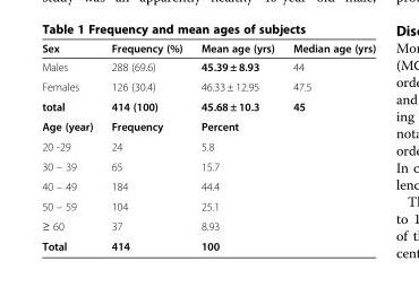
<table><thead><tr><td>Sex</td><td>Frequency (%)</td><td>Mean age (yrs)</td><td>Median age (yrs)</td></tr></thead><tbody><tr><td>Males</td><td>288 (69.6)</td><td>45.39 ± 8.93</td><td>44</td></tr><tr><td>Females</td><td>126 (30.4)</td><td>46.33 ± 12.95</td><td>47.5</td></tr><tr><td>total</td><td>414 (100)</td><td>45.68 ± 10.3</td><td>45</td></tr><tr><td>Age (year)</td><td>Frequency</td><td colspan="2">Percent</td></tr><tr><td>20 -29</td><td>24</td><td colspan="2">5.8</td></tr><tr><td>30 – 39</td><td>65</td><td colspan="2">15.7</td></tr><tr><td>40 – 49</td><td>184</td><td colspan="2">44.4</td></tr><tr><td>50 – 59</td><td>104</td><td colspan="2">25.1</td></tr><tr><td>≥ 60</td><td>37</td><td colspan="2">8.93</td></tr><tr><td>Total</td><td>414</td><td colspan="2">100</td></tr></tbody></table>